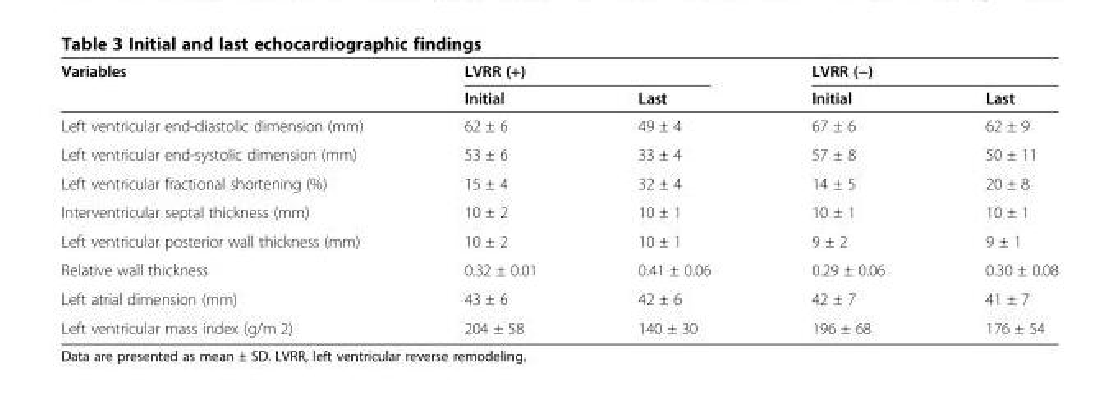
<table><thead><tr><td rowspan="2">Variables</td><td colspan="2">LVRR (+)</td><td colspan="2">LVRR (−)</td></tr><tr><td>Initial</td><td>Last</td><td>Initial</td><td>Last</td></tr></thead><tbody><tr><td>Left ventricular end-diastolic dimension (mm)</td><td>62 ± 6</td><td>49 ± 4</td><td>67 ± 6</td><td>62 ± 9</td></tr><tr><td>Left ventricular end-systolic dimension (mm)</td><td>53 ± 6</td><td>33 ± 4</td><td>57 ± 8</td><td>50 ± 11</td></tr><tr><td>Left ventricular fractional shortening (%)</td><td>15 ± 4</td><td>32 ± 4</td><td>14 ± 5</td><td>20 ± 8</td></tr><tr><td>Interventricular septal thickness (mm)</td><td>10 ± 2</td><td>10 ± 1</td><td>10 ± 1</td><td>10 ± 1</td></tr><tr><td>Left ventricular posterior wall thickness (mm)</td><td>10 ± 2</td><td>10 ± 1</td><td>9 ± 2</td><td>9 ± 1</td></tr><tr><td>Relative wall thickness</td><td>0.32 ± 0.01</td><td>0.41 ± 0.06</td><td>0.29 ± 0.06</td><td>0.30 ± 0.08</td></tr><tr><td>Left atrial dimension (mm)</td><td>43 ± 6</td><td>42 ± 6</td><td>42 ± 7</td><td>41 ± 7</td></tr><tr><td>Left ventricular mass index (g/m 2)</td><td>204 ± 58</td><td>140 ± 30</td><td>196 ± 68</td><td>176 ± 54</td></tr></tbody></table>